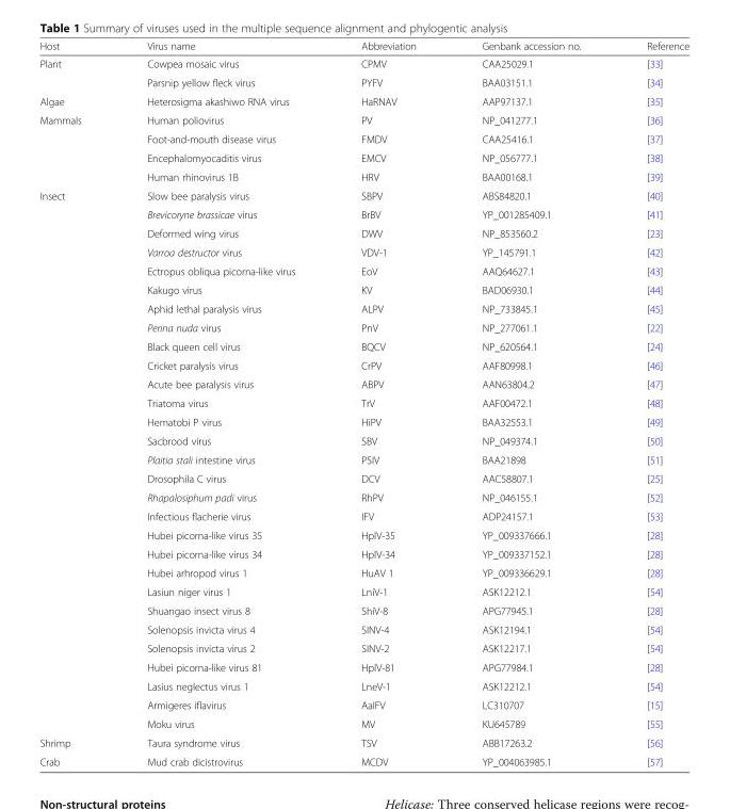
<table><thead><tr><td>Host</td><td>Virus name</td><td>Abbreviation</td><td>Genbank accession no.</td><td>Reference</td></tr></thead><tbody><tr><td rowspan="2">Plant</td><td>Cowpea mosaic virus</td><td>CPMV</td><td>CAA25029.1</td><td>[33]</td></tr><tr><td>Parsnip yellow fleck virus</td><td>PYFV</td><td>BAA03151.1</td><td>[34]</td></tr><tr><td>Algae</td><td>Heterosigma akashiwo RNA virus</td><td>HaRNAV</td><td>AAP97137.1</td><td>[35]</td></tr><tr><td rowspan="4">Mammals</td><td>Human poliovirus</td><td>PV</td><td>NP_041277.1</td><td>[36]</td></tr><tr><td>Foot-and-mouth disease virus</td><td>FMDV</td><td>CAA25416.1</td><td>[37]</td></tr><tr><td>Encephalomyocaditis virus</td><td>EMCV</td><td>NP_056777.1</td><td>[38]</td></tr><tr><td>Human rhinovirus 1B</td><td>HRV</td><td>BAA00168.1</td><td>[39]</td></tr><tr><td rowspan="29">Insect</td><td>Slow bee paralysis virus</td><td>SBPV</td><td>ABS84820.1</td><td>[40]</td></tr><tr><td>Brevicoryne brassicae virus</td><td>BrBV</td><td>YP_001285409.1</td><td>[41]</td></tr><tr><td>Deformed wing virus</td><td>DWV</td><td>NP_853560.2</td><td>[23]</td></tr><tr><td>Varroa destructor virus</td><td>VDV-1</td><td>YP_145791.1</td><td>[42]</td></tr><tr><td>Ectropus obliqua picorna-like virus</td><td>EoV</td><td>AAQ64627.1</td><td>[43]</td></tr><tr><td>Kakugo virus</td><td>KV</td><td>BAD06930.1</td><td>[44]</td></tr><tr><td>Aphid lethal paralysis virus</td><td>ALPV</td><td>NP_733845.1</td><td>[45]</td></tr><tr><td>Perina nuda virus</td><td>PnV</td><td>NP_277061.1</td><td>[22]</td></tr><tr><td>Black queen cell virus</td><td>BQCV</td><td>NP_620564.1</td><td>[24]</td></tr><tr><td>Cricket paralysis virus</td><td>CrPV</td><td>AAF80998.1</td><td>[46]</td></tr><tr><td>Acute bee paralysis virus</td><td>ABPV</td><td>AAN63804.2</td><td>[47]</td></tr><tr><td>Triatoma virus</td><td>TrV</td><td>AAF00472.1</td><td>[48]</td></tr><tr><td>Hematobi P virus</td><td>HiPV</td><td>BAA32553.1</td><td>[49]</td></tr><tr><td>Sacbrood virus</td><td>SBV</td><td>NP_049374.1</td><td>[50]</td></tr><tr><td>Plaitia stali intestine virus</td><td>PSIV</td><td>BAA21898</td><td>[51]</td></tr><tr><td>Drosophila C virus</td><td>DCV</td><td>AAC58807.1</td><td>[25]</td></tr><tr><td>Rhapalosiphum padi virus</td><td>RhPV</td><td>NP_046155.1</td><td>[52]</td></tr><tr><td>Infectious flacherie virus</td><td>IFV</td><td>ADP24157.1</td><td>[53]</td></tr><tr><td>Hubei picorna-like virus 35</td><td>HplV-35</td><td>YP_009337666.1</td><td>[28]</td></tr><tr><td>Hubei picorna-like virus 34</td><td>HplV-34</td><td>YP_009337152.1</td><td>[28]</td></tr><tr><td>Hubei arhropod virus 1</td><td>HuAV 1</td><td>YP_009336629.1</td><td>[28]</td></tr><tr><td>Lasiun niger virus 1</td><td>LniV-1</td><td>ASK12212.1</td><td>[54]</td></tr><tr><td>Shuangao insect virus 8</td><td>ShiV-8</td><td>APG77945.1</td><td>[28]</td></tr><tr><td>Solenopsis invicta virus 4</td><td>SINV-4</td><td>ASK12194.1</td><td>[54]</td></tr><tr><td>Solenopsis invicta virus 2</td><td>SINV-2</td><td>ASK12217.1</td><td>[54]</td></tr><tr><td>Hubei picorna-like virus 81</td><td>HplV-81</td><td>APG77984.1</td><td>[28]</td></tr><tr><td>Lasius neglectus virus 1</td><td>LneV-1</td><td>ASK12212.1</td><td>[54]</td></tr><tr><td>Armigeres iflavirus</td><td>AaIFV</td><td>LC310707</td><td>[15]</td></tr><tr><td>Moku virus</td><td>MV</td><td>KU645789</td><td>[55]</td></tr><tr><td>Shrimp</td><td>Taura syndrome virus</td><td>TSV</td><td>ABB17263.2</td><td>[56]</td></tr><tr><td>Crab</td><td>Mud crab dicistrovirus</td><td>MCDV</td><td>YP_004063985.1</td><td>[57]</td></tr></tbody></table>